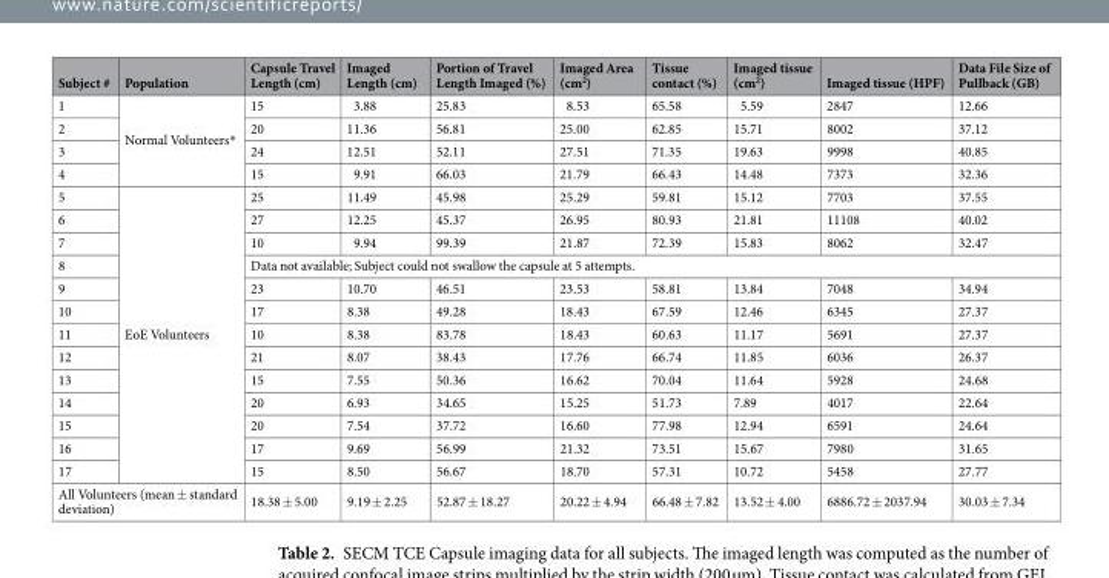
<table><thead><tr><td>Subject #</td><td>Population</td><td>Capsule Travel Length (cm)</td><td>Imaged Length (cm)</td><td>Portion of Travel Length Imaged (%)</td><td>Imaged Area (cm<sup>2</sup>)</td><td>Tissue contact (%)</td><td>Imaged tissue (cm<sup>2</sup>)</td><td>Imaged tissue (HPF)</td><td>Data File Size of Pullback (GB)</td></tr></thead><tbody><tr><td>1</td><td rowspan="4">Normal Volunteers*</td><td>15</td><td>3.88</td><td>25.83</td><td>8.53</td><td>65.58</td><td>5.59</td><td>2847</td><td>12.66</td></tr><tr><td>2</td><td>20</td><td>11.36</td><td>56.81</td><td>25.00</td><td>62.85</td><td>15.71</td><td>8002</td><td>37.12</td></tr><tr><td>3</td><td>24</td><td>12.51</td><td>52.11</td><td>27.51</td><td>71.35</td><td>19.63</td><td>9998</td><td>40.85</td></tr><tr><td>4</td><td>15</td><td>9.91</td><td>66.03</td><td>21.79</td><td>66.43</td><td>14.48</td><td>7373</td><td>32.36</td></tr><tr><td>5</td><td rowspan="13">EoE Volunteers</td><td>25</td><td>11.49</td><td>45.98</td><td>25.29</td><td>59.81</td><td>15.12</td><td>7703</td><td>37.55</td></tr><tr><td>6</td><td>27</td><td>12.25</td><td>45.37</td><td>26.95</td><td>80.93</td><td>21.81</td><td>11108</td><td>40.02</td></tr><tr><td>7</td><td>10</td><td>9.94</td><td>99.39</td><td>21.87</td><td>72.39</td><td>15.83</td><td>8062</td><td>32.47</td></tr><tr><td>8</td><td colspan="8">Data not available; Subject could not swallow the capsule at 5 attempts.</td></tr><tr><td>9</td><td>23</td><td>10.70</td><td>46.51</td><td>23.53</td><td>58.81</td><td>13.84</td><td>7048</td><td>34.94</td></tr><tr><td>10</td><td>17</td><td>8.38</td><td>49.28</td><td>18.43</td><td>67.59</td><td>12.46</td><td>6345</td><td>27.37</td></tr><tr><td>11</td><td>10</td><td>8.38</td><td>83.78</td><td>18.43</td><td>60.63</td><td>11.17</td><td>5691</td><td>27.37</td></tr><tr><td>12</td><td>21</td><td>8.07</td><td>38.43</td><td>17.76</td><td>66.74</td><td>11.85</td><td>6036</td><td>26.37</td></tr><tr><td>13</td><td>15</td><td>7.55</td><td>50.36</td><td>16.62</td><td>70.04</td><td>11.64</td><td>5928</td><td>24.68</td></tr><tr><td>14</td><td>20</td><td>6.93</td><td>34.65</td><td>15.25</td><td>51.73</td><td>7.89</td><td>4017</td><td>22.64</td></tr><tr><td>15</td><td>20</td><td>7.54</td><td>37.72</td><td>16.60</td><td>77.98</td><td>12.94</td><td>6591</td><td>24.64</td></tr><tr><td>16</td><td>17</td><td>9.69</td><td>56.99</td><td>21.32</td><td>73.51</td><td>15.67</td><td>7980</td><td>31.65</td></tr><tr><td>17</td><td>15</td><td>8.50</td><td>56.67</td><td>18.70</td><td>57.31</td><td>10.72</td><td>5458</td><td>27.77</td></tr><tr><td colspan="2">All Volunteers (mean ± standard deviation)</td><td>18.38 ± 5.00</td><td>9.19 ± 2.25</td><td>52.87 ± 18.27</td><td>20.22 ± 4.94</td><td>66.48 ± 7.82</td><td>13.52 ± 4.00</td><td>6886.72 ± 2037.94</td><td>30.03 ± 7.34</td></tr></tbody></table>